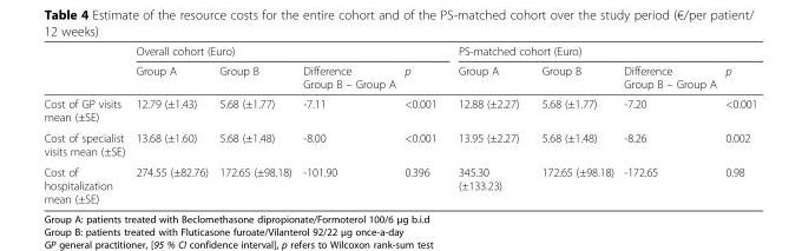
<table><thead><tr><td rowspan="2"></td><td colspan="4">Overall cohort (Euro)</td><td colspan="4">PS-matched cohort (Euro)</td></tr><tr><td>Group A</td><td>Group B</td><td>Difference Group B – Group A</td><td>p</td><td>Group A</td><td>Group B</td><td>Difference Group B – Group A</td><td>p</td></tr></thead><tbody><tr><td>Cost of GP visits mean (±SE)</td><td>12.79 (±1.43)</td><td>5.68 (±1.77)</td><td>-7.11</td><td>&lt;0.001</td><td>12.88 (±2.27)</td><td>5.68 (±1.77)</td><td>-7.20</td><td>&lt;0.001</td></tr><tr><td>Cost of specialist visits mean (±SE)</td><td>13.68 (±1.60)</td><td>5.68 (±1.48)</td><td>-8.00</td><td>&lt;0.001</td><td>13.95 (±2.27)</td><td>5.68 (±1.48)</td><td>-8.26</td><td>0.002</td></tr><tr><td>Cost of hospitalization mean (±SE)</td><td>274.55 (±82.76)</td><td>172.65 (±98.18)</td><td>-101.90</td><td>0.396</td><td>345.30 (±133.23)</td><td>172.65 (±98.18)</td><td>-172.65</td><td>0.98</td></tr></tbody></table>